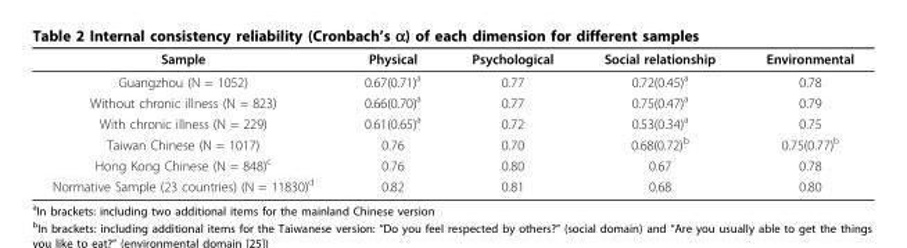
<table><tbody><tr><td>Sample</td><td>Physical</td><td>Psychological</td><td>Social relationship</td><td>Environmental</td></tr><tr><td>Guangzhou (N = 1052)</td><td>0.67(0.71)<sup>a</sup></td><td>0.77</td><td>0.72(0.45)<sup>a</sup></td><td>0.78</td></tr><tr><td>Without chronic illness (N = 823)</td><td>0.66(0.70)<sup>a</sup></td><td>0.77</td><td>0.75(0.47)<sup>a</sup></td><td>0.79</td></tr><tr><td>With chronic illness (N = 229)</td><td>0.61(0.65)<sup>a</sup></td><td>0.72</td><td>0.53(0.34)<sup>a</sup></td><td>0.75</td></tr><tr><td>Taiwan Chinese (N = 1017)</td><td>0.76</td><td>0.70</td><td>0.68(0.72)<sup>b</sup></td><td>0.75(0.77)<sup>b</sup></td></tr><tr><td>Hong Kong Chinese (N = 848)<sup>c</sup></td><td>0.76</td><td>0.80</td><td>0.67</td><td>0.78</td></tr><tr><td>Normative Sample (23 countries) (N = 11830)<sup>d</sup></td><td>0.82</td><td>0.81</td><td>0.68</td><td>0.80</td></tr></tbody></table>